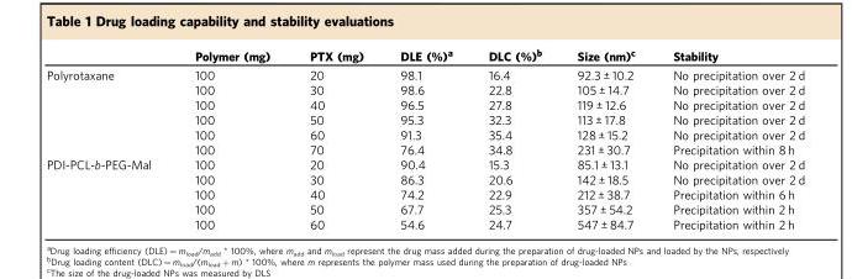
<table><thead><tr><td></td><td>Polymer (mg)</td><td>PTX (mg)</td><td>DLE (%)<sup>a</sup></td><td>DLC (%)<sup>b</sup></td><td>Size (nm)<sup>c</sup></td><td>Stability</td></tr></thead><tbody><tr><td rowspan="6">Polyrotaxane</td><td>100</td><td>20</td><td>98.1</td><td>16.4</td><td>92.3 ± 10.2</td><td>No precipitation over 2 d</td></tr><tr><td>100</td><td>30</td><td>98.6</td><td>22.8</td><td>105 ± 14.7</td><td>No precipitation over 2 d</td></tr><tr><td>100</td><td>40</td><td>96.5</td><td>27.8</td><td>119 ± 12.6</td><td>No precipitation over 2 d</td></tr><tr><td>100</td><td>50</td><td>95.3</td><td>32.3</td><td>113 ± 17.8</td><td>No precipitation over 2 d</td></tr><tr><td>100</td><td>60</td><td>91.3</td><td>35.4</td><td>128 ± 15.2</td><td>No precipitation over 2 d</td></tr><tr><td>100</td><td>70</td><td>76.4</td><td>34.8</td><td>231 ± 30.7</td><td>Precipitation within 8 h</td></tr><tr><td rowspan="5">PDI-PCL-b-PEG-Mal</td><td>100</td><td>20</td><td>90.4</td><td>15.3</td><td>85.1 ± 13.1</td><td>No precipitation over 2 d</td></tr><tr><td>100</td><td>30</td><td>86.3</td><td>20.6</td><td>142 ± 18.5</td><td>No precipitation over 2 d</td></tr><tr><td>100</td><td>40</td><td>74.2</td><td>22.9</td><td>212 ± 38.7</td><td>Precipitation within 6 h</td></tr><tr><td>100</td><td>50</td><td>67.7</td><td>25.3</td><td>357 ± 54.2</td><td>Precipitation within 2 h</td></tr><tr><td>100</td><td>60</td><td>54.6</td><td>24.7</td><td>547 ± 84.7</td><td>Precipitation within 2 h</td></tr></tbody></table>